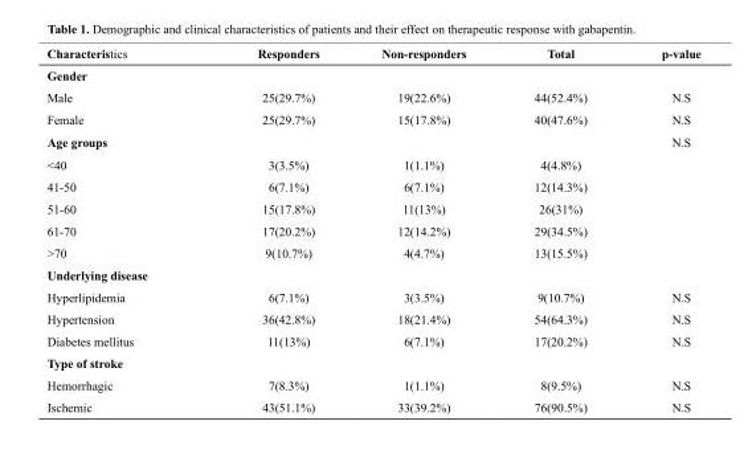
<table><thead><tr><td>Characteristics</td><td>Responders</td><td>Non-responders</td><td>Total</td><td>p-value</td></tr></thead><tbody><tr><td colspan="5">Gender</td></tr><tr><td>Male</td><td>25(29.7%)</td><td>19(22.6%)</td><td>44(52.4%)</td><td>N.S</td></tr><tr><td>Female</td><td>25(29.7%)</td><td>15(17.8%)</td><td>40(47.6%)</td><td>N.S</td></tr><tr><td>Age groups</td><td></td><td></td><td></td><td>N.S</td></tr><tr><td>&lt;40</td><td>3(3.5%)</td><td>1(1.1%)</td><td>4(4.8%)</td><td></td></tr><tr><td>41-50</td><td>6(7.1%)</td><td>6(7.1%)</td><td>12(14.3%)</td><td></td></tr><tr><td>51-60</td><td>15(17.8%)</td><td>11(13%)</td><td>26(31%)</td><td></td></tr><tr><td>61-70</td><td>17(20.2%)</td><td>12(14.2%)</td><td>29(34.5%)</td><td></td></tr><tr><td>&gt;70</td><td>9(10.7%)</td><td>4(4.7%)</td><td>13(15.5%)</td><td></td></tr><tr><td colspan="5">Underlying disease</td></tr><tr><td>Hyperlipidemia</td><td>6(7.1%)</td><td>3(3.5%)</td><td>9(10.7%)</td><td>N.S</td></tr><tr><td>Hypertension</td><td>36(42.8%)</td><td>18(21.4%)</td><td>54(64.3%)</td><td>N.S</td></tr><tr><td>Diabetes mellitus</td><td>11(13%)</td><td>6(7.1%)</td><td>17(20.2%)</td><td>N.S</td></tr><tr><td colspan="5">Type of stroke</td></tr><tr><td>Hemorrhagic</td><td>7(8.3%)</td><td>1(1.1%)</td><td>8(9.5%)</td><td>N.S</td></tr><tr><td>Ischemic</td><td>43(51.1%)</td><td>33(39.2%)</td><td>76(90.5%)</td><td>N.S</td></tr></tbody></table>